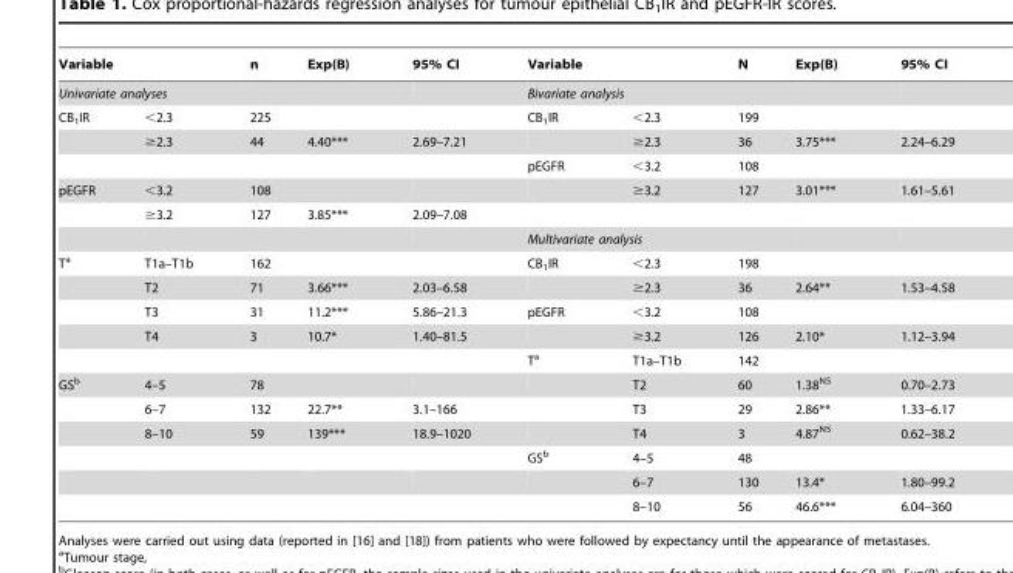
<table><thead><tr><td colspan="2">Variable</td><td>n</td><td rowspan="3">Exp(B)</td><td rowspan="3">95% CI</td><td colspan="2">Variable</td><td>N</td><td rowspan="3">Exp(B)</td><td rowspan="3">95% CI</td></tr><tr><td colspan="3">Univariate analyses</td><td colspan="3">Bivariate analysis</td></tr><tr><td>CB<sub>1</sub>IR</td><td>&lt;2.3</td><td>225</td><td>CB<sub>1</sub>IR</td><td>&lt;2.3</td><td>199</td></tr></thead><tbody><tr><td></td><td>≥2.3</td><td>44</td><td>4.40***</td><td>2.69–7.21</td><td></td><td>≥2.3</td><td>36</td><td>3.75***</td><td>2.24–6.29</td></tr><tr><td></td><td></td><td></td><td></td><td></td><td>pEGFR</td><td>&lt;3.2</td><td>108</td><td></td><td></td></tr><tr><td rowspan="3">pEGFR</td><td>&lt;3.2</td><td>108</td><td></td><td></td><td></td><td>≥3.2</td><td>127</td><td>3.01***</td><td>1.61–5.61</td></tr><tr><td>≥3.2</td><td>127</td><td>3.85***</td><td>2.09–7.08</td><td></td><td></td><td></td><td></td><td></td></tr><tr><td></td><td></td><td></td><td></td><td colspan="3">Multivariate analysis</td><td></td><td></td></tr><tr><td rowspan="5">T<sup>a</sup></td><td>T1a–T1b</td><td>162</td><td></td><td></td><td>CB<sub>1</sub>IR</td><td>&lt;2.3</td><td>198</td><td></td><td></td></tr><tr><td>T2</td><td>71</td><td>3.66***</td><td>2.03–6.58</td><td></td><td>≥2.3</td><td>36</td><td>2.64**</td><td>1.53–4.58</td></tr><tr><td>T3</td><td>31</td><td>11.2***</td><td>5.86–21.3</td><td>pEGFR</td><td>&lt;3.2</td><td>108</td><td></td><td></td></tr><tr><td>T4</td><td>3</td><td>10.7*</td><td>1.40–81.5</td><td></td><td>≥3.2</td><td>126</td><td>2.10*</td><td>1.12–3.94</td></tr><tr><td></td><td></td><td></td><td></td><td>T<sup>a</sup></td><td>T1a–T1b</td><td>142</td><td></td><td></td></tr><tr><td rowspan="6">GS<sup>b</sup></td><td>4–5</td><td>78</td><td></td><td></td><td></td><td>T2</td><td>60</td><td>1.38<sup>NS</sup></td><td>0.70–2.73</td></tr><tr><td>6–7</td><td>132</td><td>22.7**</td><td>3.1–166</td><td></td><td>T3</td><td>29</td><td>2.86**</td><td>1.33–6.17</td></tr><tr><td>8–10</td><td>59</td><td>139***</td><td>18.9–1020</td><td></td><td>T4</td><td>3</td><td>4.87<sup>NS</sup></td><td>0.62–38.2</td></tr><tr><td></td><td></td><td></td><td></td><td>GS<sup>b</sup></td><td>4–5</td><td>48</td><td></td><td></td></tr><tr><td></td><td></td><td></td><td></td><td></td><td>6–7</td><td>130</td><td>13.4*</td><td>1.80–99.2</td></tr><tr><td></td><td></td><td></td><td></td><td></td><td>8–10</td><td>56</td><td>46.6***</td><td>6.04–360</td></tr></tbody></table>